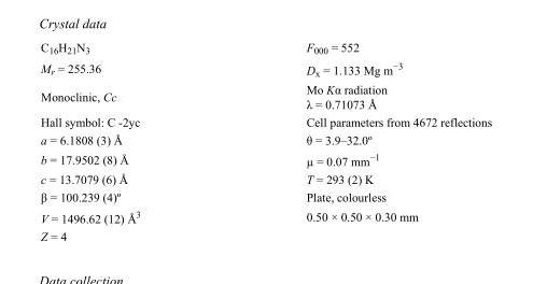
<table><tbody><tr><td>C<sub>16</sub>H<sub>21</sub>N<sub>3</sub></td><td>F000 = 552</td></tr><tr><td>M<sub>r</sub> = 255.36</td><td>D<sub>x</sub> = 1.133 Mg m<sup>−3</sup></td></tr><tr><td>Monoclinic, Cc</td><td>Mo Kα radiation λ = 0.71073 Å</td></tr><tr><td>Hall symbol: C -2yc</td><td>Cell parameters from 4672 reflections</td></tr><tr><td>a = 6.1808 (3) Å</td><td>θ = 3.9–32.0º</td></tr><tr><td>b = 17.9502 (8) Å</td><td>µ = 0.07 mm<sup>−1</sup></td></tr><tr><td>c = 13.7079 (6) Å</td><td>T = 293 (2) K</td></tr><tr><td>β = 100.239 (4)º</td><td>Plate, colourless</td></tr><tr><td>V = 1496.62 (12) Å<sup>3</sup></td><td>0.50 × 0.50 × 0.30 mm</td></tr><tr><td>Z = 4</td><td></td></tr></tbody></table>